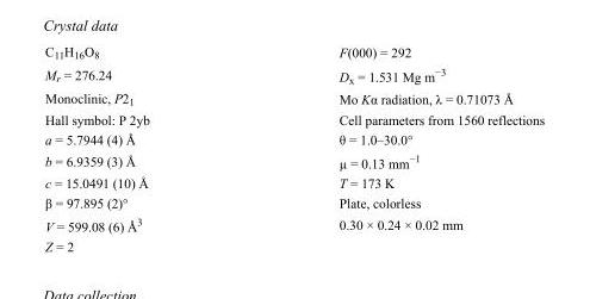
<table><tbody><tr><td>C<sub>11</sub>H<sub>16</sub>O<sub>8</sub></td><td>F(000) = 292</td></tr><tr><td>M<sub>r</sub> = 276.24</td><td>D<sub>x</sub> = 1.531 Mg m<sup>−3</sup></td></tr><tr><td>Monoclinic, P2<sub>1</sub></td><td>Mo Kα radiation, λ = 0.71073 Å</td></tr><tr><td>Hall symbol: P 2yb</td><td>Cell parameters from 1560 reflections</td></tr><tr><td>a = 5.7944 (4) Å</td><td>θ = 1.0–30.0°</td></tr><tr><td>b = 6.9359 (3) Å</td><td>µ = 0.13 mm<sup>−1</sup></td></tr><tr><td>c = 15.0491 (10) Å</td><td>T = 173 K</td></tr><tr><td>β = 97.895 (2)°</td><td>Plate, colorless</td></tr><tr><td>V = 599.08 (6) Å<sup>3</sup></td><td>0.30 × 0.24 × 0.02 mm</td></tr><tr><td>Z = 2</td><td></td></tr></tbody></table>